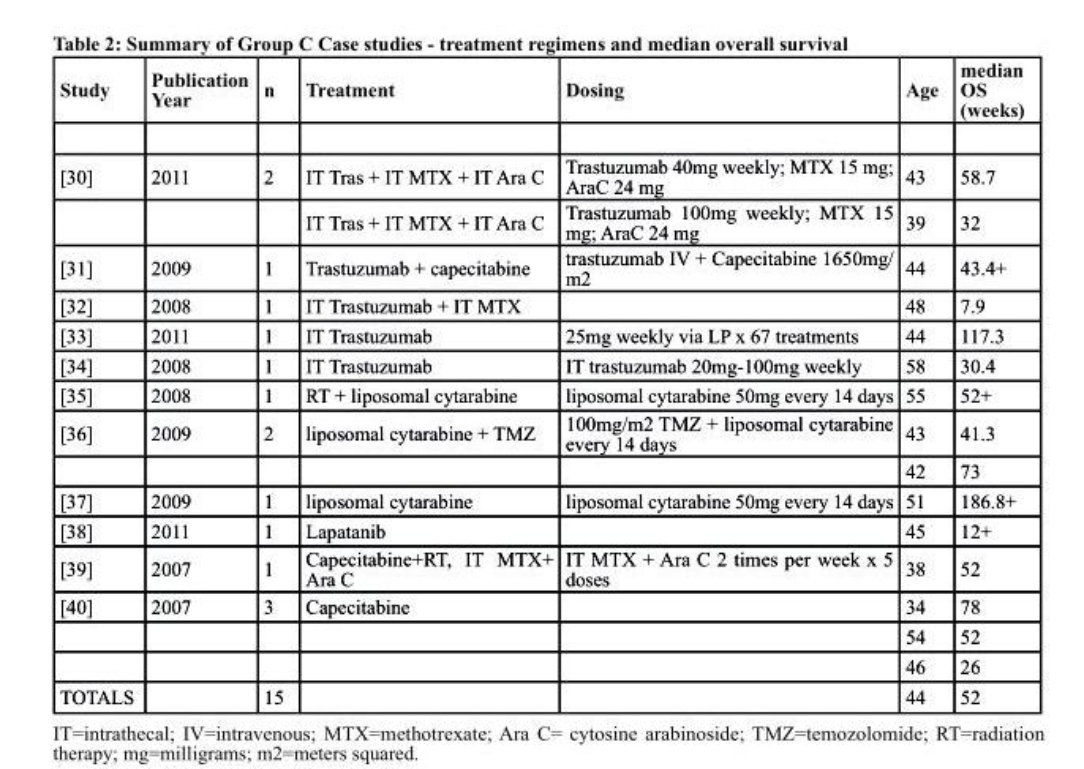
<table><thead><tr><td>study</td><td>Publication Year</td><td>n</td><td>treatment</td><td>dosing</td><td>Age</td><td>median os (weeks)</td></tr></thead><tbody><tr><td rowspan="2">[30]</td><td>2011</td><td>2</td><td>IT Tras + IT MTX + IT Ara C</td><td>Trastuzumab 40mg weekly; MTX 15 mg; AraC 24 mg</td><td>43</td><td>58.7</td></tr><tr><td></td><td></td><td>IT Tras + IT MTX + IT Ara C</td><td>Trastuzumab 100mg weekly; MTX 15 mg; AraC 24 mg</td><td>39</td><td>32</td></tr><tr><td>[31]</td><td>2009</td><td>1</td><td>Trastuzumab + capecitabine</td><td>trastuzumab IV + Capecitabine 1650mg/ m2</td><td>44</td><td>43.4+</td></tr><tr><td>[32]</td><td>2008</td><td>1</td><td>IT Trastuzumab + IT MTX</td><td></td><td>48</td><td>7.9</td></tr><tr><td>[33]</td><td>2011</td><td>1</td><td>IT Trastuzumab</td><td>25mg weekly via LP x 67 treatments</td><td>44</td><td>117.3</td></tr><tr><td>[34]</td><td>2008</td><td>1</td><td>IT Trastuzumab</td><td>IT trastuzumab 20mg-100mg weekly</td><td>58</td><td>30.4</td></tr><tr><td>[35]</td><td>2008</td><td>1</td><td>RT + liposomal cytarabine</td><td>liposomal cytarabine 50mg every 14 days</td><td>55</td><td>52+</td></tr><tr><td rowspan="2">[36]</td><td>2009</td><td>2</td><td>liposomal cytarabine + TMZ</td><td>100mg/m2 TMZ + liposomal cytarabine every 14 days</td><td>43</td><td>41.3</td></tr><tr><td></td><td></td><td></td><td></td><td>42</td><td>73</td></tr><tr><td>[37]</td><td>2009</td><td>1</td><td>liposomal cytarabine</td><td>liposomal cytarabine 50mg every 14 days</td><td>51</td><td>186.8+</td></tr><tr><td>[38]</td><td>2011</td><td>1</td><td>Lapatanib</td><td></td><td>45</td><td>12+</td></tr><tr><td>[39]</td><td>2007</td><td>1</td><td>Capecitabine+RT, IT MTX+ Ara C</td><td>IT MTX + Ara C 2 times per week x 5 doses</td><td>38</td><td>52</td></tr><tr><td rowspan="3">[40]</td><td>2007</td><td>3</td><td>Capecitabine</td><td></td><td>34</td><td>78</td></tr><tr><td></td><td></td><td></td><td></td><td>54</td><td>52</td></tr><tr><td></td><td></td><td></td><td></td><td>46</td><td>26</td></tr><tr><td>TOTALS</td><td></td><td>15</td><td></td><td></td><td>44</td><td>52</td></tr></tbody></table>